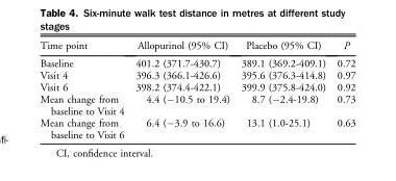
<table><thead><tr><td>Time point</td><td>Allopurinol (95% CI)</td><td>Placebo (95% CI)</td><td>P</td></tr></thead><tbody><tr><td>Baseline</td><td>401.2 (371.7-430.7)</td><td>389.1 (369.2-409.1)</td><td>0.72</td></tr><tr><td>Visit 4</td><td>396.3 (366.1-426.6)</td><td>395.6 (376.3-414.8)</td><td>0.97</td></tr><tr><td>Visit 6</td><td>398.2 (374.4-422.1)</td><td>399.9 (375.8-424.0)</td><td>0.92</td></tr><tr><td>Mean change from baseline to Visit 4</td><td>4.4 (−10.5 to 19.4)</td><td>8.7 (−2.4-19.8)</td><td>0.73</td></tr><tr><td>Mean change from baseline to Visit 6</td><td>6.4 (−3.9 to 16.6)</td><td>13.1 (1.0-25.1)</td><td>0.63</td></tr></tbody></table>